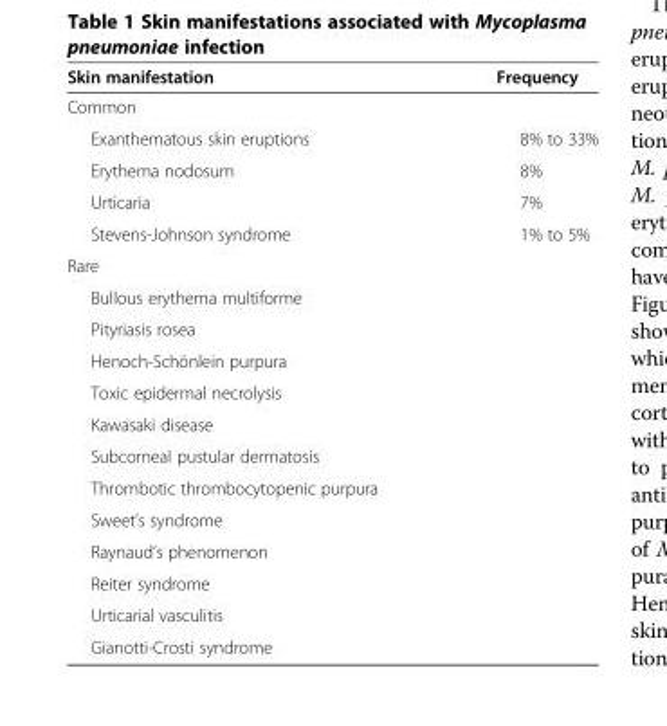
<table><thead><tr><td>Skin manifestation</td><td>Frequency</td></tr></thead><tbody><tr><td colspan="2">Common</td></tr><tr><td>Exanthematous skin eruptions</td><td>8% to 33%</td></tr><tr><td>Erythema nodosum</td><td>8%</td></tr><tr><td>Urticaria</td><td>7%</td></tr><tr><td>Stevens-Johnson syndrome</td><td>1% to 5%</td></tr><tr><td colspan="2">Rare</td></tr><tr><td colspan="2">Bullous erythema multiforme</td></tr><tr><td colspan="2">Pityriasis rosea</td></tr><tr><td colspan="2">Henoch-Schönlein purpura</td></tr><tr><td colspan="2">Toxic epidermal necrolysis</td></tr><tr><td colspan="2">Kawasaki disease</td></tr><tr><td colspan="2">Subcorneal pustular dermatosis</td></tr><tr><td colspan="2">Thrombotic thrombocytopenic purpura</td></tr><tr><td colspan="2">Sweet’s syndrome</td></tr><tr><td colspan="2">Raynaud’s phenomenon</td></tr><tr><td colspan="2">Reiter syndrome</td></tr><tr><td colspan="2">Urticarial vasculitis</td></tr><tr><td>Gianotti-Crosti syndrome</td><td></td></tr></tbody></table>